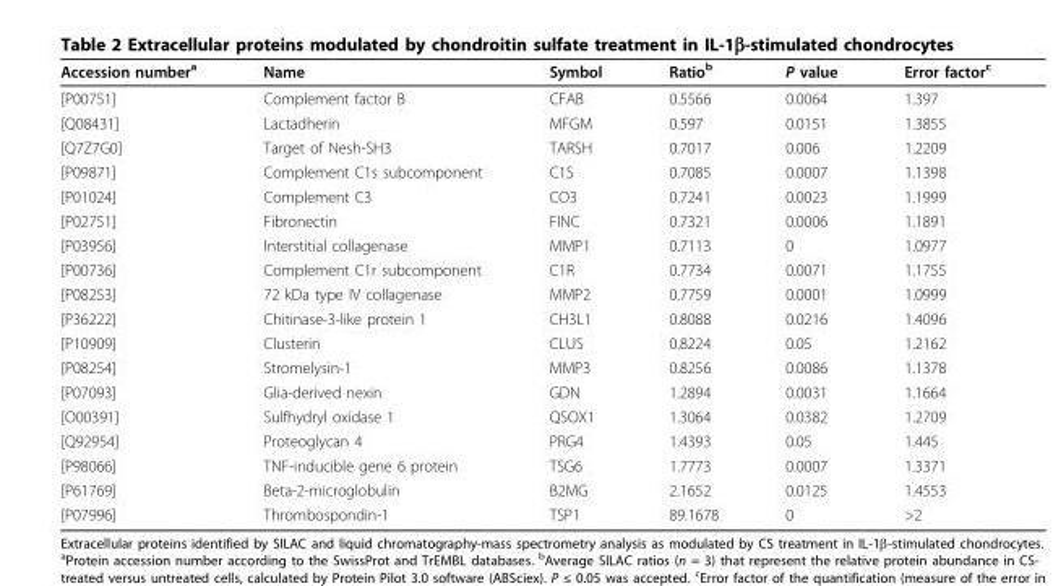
<table><thead><tr><td>Accession number<sup>a</sup></td><td>Name</td><td>Symbol</td><td>Ratio<sup>b</sup></td><td>P value</td><td>Error factor<sup>c</sup></td></tr></thead><tbody><tr><td>[P00751]</td><td>Complement factor B</td><td>CFAB</td><td>0.5566</td><td>0.0064</td><td>1.397</td></tr><tr><td>[Q08431]</td><td>Lactadherin</td><td>MFGM</td><td>0.597</td><td>0.0151</td><td>1.3855</td></tr><tr><td>[Q7Z7G0]</td><td>Target of Nesh-SH3</td><td>TARSH</td><td>0.7017</td><td>0.006</td><td>1.2209</td></tr><tr><td>[P09871]</td><td>Complement C1s subcomponent</td><td>C1S</td><td>0.7085</td><td>0.0007</td><td>1.1398</td></tr><tr><td>[P01024]</td><td>Complement C3</td><td>CO3</td><td>0.7241</td><td>0.0023</td><td>1.1999</td></tr><tr><td>[P02751]</td><td>Fibronectin</td><td>FINC</td><td>0.7321</td><td>0.0006</td><td>1.1891</td></tr><tr><td>[P03956]</td><td>Interstitial collagenase</td><td>MMP1</td><td>0.7113</td><td>0</td><td>1.0977</td></tr><tr><td>[P00736]</td><td>Complement C1r subcomponent</td><td>C1R</td><td>0.7734</td><td>0.0071</td><td>1.1755</td></tr><tr><td>[P08253]</td><td>72 kDa type IV collagenase</td><td>MMP2</td><td>0.7759</td><td>0.0001</td><td>1.0999</td></tr><tr><td>[P36222]</td><td>Chitinase-3-like protein 1</td><td>CH3L1</td><td>0.8088</td><td>0.0216</td><td>1.4096</td></tr><tr><td>[P10909]</td><td>Clusterin</td><td>CLUS</td><td>0.8224</td><td>0.05</td><td>1.2162</td></tr><tr><td>[P08254]</td><td>Stromelysin-1</td><td>MMP3</td><td>0.8256</td><td>0.0086</td><td>1.1378</td></tr><tr><td>[P07093]</td><td>Glia-derived nexin</td><td>GDN</td><td>1.2894</td><td>0.0031</td><td>1.1664</td></tr><tr><td>[O00391]</td><td>Sulfhydryl oxidase 1</td><td>QSOX1</td><td>1.3064</td><td>0.0382</td><td>1.2709</td></tr><tr><td>[Q92954]</td><td>Proteoglycan 4</td><td>PRG4</td><td>1.4393</td><td>0.05</td><td>1.445</td></tr><tr><td>[P98066]</td><td>TNF-inducible gene 6 protein</td><td>TSG6</td><td>1.7773</td><td>0.0007</td><td>1.3371</td></tr><tr><td>[P61769]</td><td>Beta-2-microglobulin</td><td>B2MG</td><td>2.1652</td><td>0.0125</td><td>1.4553</td></tr><tr><td>[P07996]</td><td>Thrombospondin-1</td><td>TSP1</td><td>89.1678</td><td>0</td><td>&gt;2</td></tr></tbody></table>